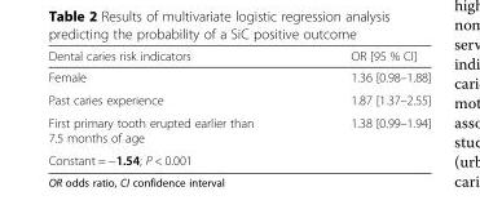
<table><thead><tr><td>Dental caries risk indicators</td><td>OR [95 % CI]</td></tr></thead><tbody><tr><td>Female</td><td>1.36 [0.98–1.88]</td></tr><tr><td>Past caries experience</td><td>1.87 [1.37–2.55]</td></tr><tr><td>First primary tooth erupted earlier than 7.5 months of age</td><td>1.38 [0.99–1.94]</td></tr><tr><td colspan="2">Constant = −1.54; P &lt; 0.001</td></tr></tbody></table>